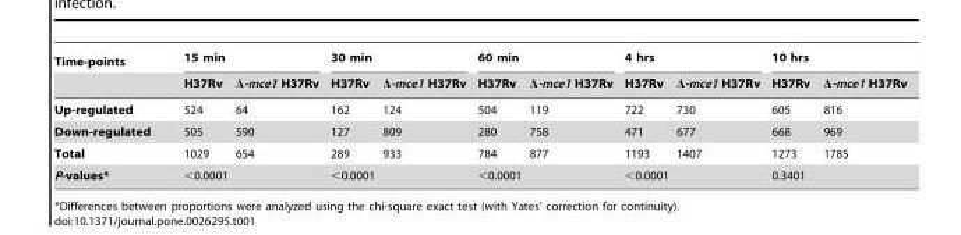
<table><thead><tr><td rowspan="2">Time-points</td><td colspan="2">15 min</td><td colspan="2">30 min</td><td colspan="2">60 min</td><td colspan="2">4 hrs</td><td colspan="2">10 hrs</td></tr><tr><td>H37Rv</td><td>Δ-mce1 H37Rv</td><td>H37Rv</td><td>Δ-mce1 H37Rv</td><td>H37Rv</td><td>Δ-mce1 H37Rv</td><td>H37Rv</td><td>Δ-mce1 H37Rv</td><td>H37Rv</td><td>Δ-mce1 H37Rv</td></tr></thead><tbody><tr><td>Up-regulated</td><td>524</td><td>64</td><td>162</td><td>124</td><td>504</td><td>119</td><td>722</td><td>730</td><td>605</td><td>816</td></tr><tr><td>Down-regulated</td><td>505</td><td>590</td><td>127</td><td>809</td><td>280</td><td>758</td><td>471</td><td>677</td><td>668</td><td>969</td></tr><tr><td>Total</td><td>1029</td><td>654</td><td>289</td><td>933</td><td>784</td><td>877</td><td>1193</td><td>1407</td><td>1273</td><td>1785</td></tr><tr><td>P-values*</td><td colspan="2">&lt;0.0001</td><td colspan="2">&lt;0.0001</td><td colspan="2">&lt;0.0001</td><td colspan="2">&lt;0.0001</td><td colspan="2">0.3401</td></tr></tbody></table>